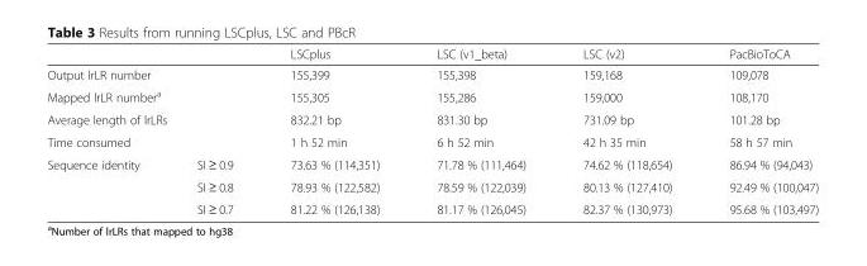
<table><thead><tr><td></td><td></td><td>LSCplus</td><td>LSC (v1_beta)</td><td>LSC (v2)</td><td>PacBioToCA</td></tr></thead><tbody><tr><td colspan="2">Output lrLR number</td><td>155,399</td><td>155,398</td><td>159,168</td><td>109,078</td></tr><tr><td colspan="2">Mapped lrLR number<sup>a</sup></td><td>155,305</td><td>155,286</td><td>159,000</td><td>108,170</td></tr><tr><td colspan="2">Average length of lrLRs</td><td>832.21 bp</td><td>831.30 bp</td><td>731.09 bp</td><td>101.28 bp</td></tr><tr><td>Time consumed</td><td></td><td>1 h 52 min</td><td>6 h 52 min</td><td>42 h 35 min</td><td>58 h 57 min</td></tr><tr><td rowspan="3">Sequence identity</td><td>SI ≥ 0.9</td><td>73.63 % (114,351)</td><td>71.78 % (111,464)</td><td>74.62 % (118,654)</td><td>86.94 % (94,043)</td></tr><tr><td>SI ≥ 0.8</td><td>78.93 % (122,582)</td><td>78.59 % (122,039)</td><td>80.13 % (127,410)</td><td>92.49 % (100,047)</td></tr><tr><td>SI ≥ 0.7</td><td>81.22 % (126,138)</td><td>81.17 % (126,045)</td><td>82.37 % (130,973)</td><td>95.68 % (103,497)</td></tr></tbody></table>